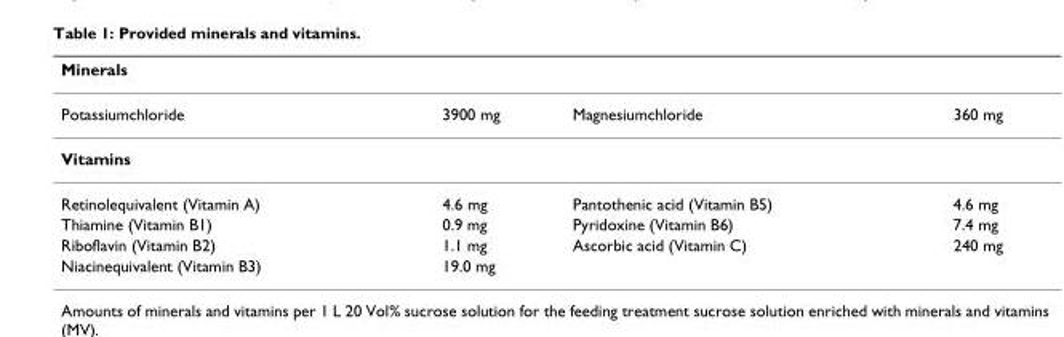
<table><thead><tr><td colspan="4">Minerals</td></tr><tr><td>Potassiumchloride</td><td>3900 mg</td><td>Magnesiumchloride</td><td>360 mg</td></tr></thead><tbody><tr><td colspan="4">Vitamins</td></tr><tr><td>Retinolequivalent (Vitamin A)</td><td>4.6 mg</td><td>Pantothenic acid (Vitamin B5)</td><td>4.6 mg</td></tr><tr><td>Thiamine (Vitamin B1)</td><td>0.9 mg</td><td>Pyridoxine (Vitamin B6)</td><td>7.4 mg</td></tr><tr><td>Riboflavin (Vitamin B2)</td><td>1.1 mg</td><td>Ascorbic acid (Vitamin C)</td><td>240 mg</td></tr><tr><td>Niacinequivalent (Vitamin B3)</td><td>19.0 mg</td><td></td><td></td></tr></tbody></table>